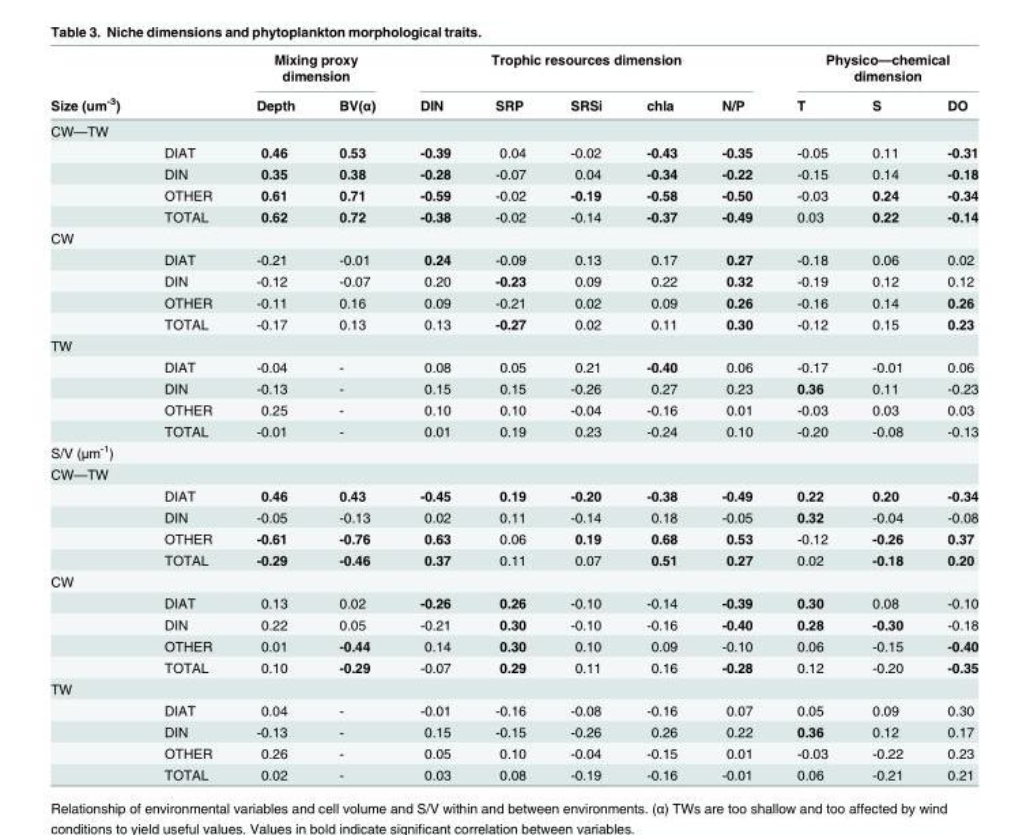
<table><thead><tr><td rowspan="2">Size (um<sup>-3</sup>)</td><td rowspan="2"></td><td colspan="2">Mixing proxy dimension</td><td colspan="5">Trophic resources dimension</td><td colspan="3">Physico—chemical dimension</td></tr><tr><td>Depth</td><td>BV(α)</td><td>DIN</td><td>SRP</td><td>SRSi</td><td>chla</td><td>N/P</td><td>T</td><td>S</td><td>DO</td></tr></thead><tbody><tr><td colspan="12">CW—TW</td></tr><tr><td></td><td>DIAT</td><td>0.46</td><td>0.53</td><td>-0.39</td><td>0.04</td><td>-0.02</td><td>-0.43</td><td>-0.35</td><td>-0.05</td><td>0.11</td><td>-0.31</td></tr><tr><td></td><td>DIN</td><td>0.35</td><td>0.38</td><td>-0.28</td><td>-0.07</td><td>0.04</td><td>-0.34</td><td>-0.22</td><td>-0.15</td><td>0.14</td><td>-0.18</td></tr><tr><td></td><td>OTHER</td><td>0.61</td><td>0.71</td><td>-0.59</td><td>-0.02</td><td>-0.19</td><td>-0.58</td><td>-0.50</td><td>-0.03</td><td>0.24</td><td>-0.34</td></tr><tr><td></td><td>TOTAL</td><td>0.62</td><td>0.72</td><td>-0.38</td><td>-0.02</td><td>-0.14</td><td>-0.37</td><td>-0.49</td><td>0.03</td><td>0.22</td><td>-0.14</td></tr><tr><td colspan="12">CW</td></tr><tr><td></td><td>DIAT</td><td>-0.21</td><td>-0.01</td><td>0.24</td><td>-0.09</td><td>0.13</td><td>0.17</td><td>0.27</td><td>-0.18</td><td>0.06</td><td>0.02</td></tr><tr><td></td><td>DIN</td><td>-0.12</td><td>-0.07</td><td>0.20</td><td>-0.23</td><td>0.09</td><td>0.22</td><td>0.32</td><td>-0.19</td><td>0.12</td><td>0.12</td></tr><tr><td></td><td>OTHER</td><td>-0.11</td><td>0.16</td><td>0.09</td><td>-0.21</td><td>0.02</td><td>0.09</td><td>0.26</td><td>-0.16</td><td>0.14</td><td>0.26</td></tr><tr><td></td><td>TOTAL</td><td>-0.17</td><td>0.13</td><td>0.13</td><td>-0.27</td><td>0.02</td><td>0.11</td><td>0.30</td><td>-0.12</td><td>0.15</td><td>0.23</td></tr><tr><td colspan="12">TW</td></tr><tr><td></td><td>DIAT</td><td>-0.04</td><td>-</td><td>0.08</td><td>0.05</td><td>0.21</td><td>-0.40</td><td>0.06</td><td>-0.17</td><td>-0.01</td><td>0.06</td></tr><tr><td></td><td>DIN</td><td>-0.13</td><td>-</td><td>0.15</td><td>0.15</td><td>-0.26</td><td>0.27</td><td>0.23</td><td>0.36</td><td>0.11</td><td>-0.23</td></tr><tr><td></td><td>OTHER</td><td>0.25</td><td>-</td><td>0.10</td><td>0.10</td><td>-0.04</td><td>-0.16</td><td>0.01</td><td>-0.03</td><td>0.03</td><td>0.03</td></tr><tr><td></td><td>TOTAL</td><td>-0.01</td><td>-</td><td>0.01</td><td>0.19</td><td>0.23</td><td>-0.24</td><td>0.10</td><td>-0.20</td><td>-0.08</td><td>-0.13</td></tr><tr><td colspan="12">S/V (μm<sup>-1</sup>)</td></tr><tr><td colspan="12">CW—TW</td></tr><tr><td></td><td>DIAT</td><td>0.46</td><td>0.43</td><td>-0.45</td><td>0.19</td><td>-0.20</td><td>-0.38</td><td>-0.49</td><td>0.22</td><td>0.20</td><td>-0.34</td></tr><tr><td></td><td>DIN</td><td>-0.05</td><td>-0.13</td><td>0.02</td><td>0.11</td><td>-0.14</td><td>0.18</td><td>-0.05</td><td>0.32</td><td>-0.04</td><td>-0.08</td></tr><tr><td></td><td>OTHER</td><td>-0.61</td><td>-0.76</td><td>0.63</td><td>0.06</td><td>0.19</td><td>0.68</td><td>0.53</td><td>-0.12</td><td>-0.26</td><td>0.37</td></tr><tr><td></td><td>TOTAL</td><td>-0.29</td><td>-0.46</td><td>0.37</td><td>0.11</td><td>0.07</td><td>0.51</td><td>0.27</td><td>0.02</td><td>-0.18</td><td>0.20</td></tr><tr><td colspan="12">CW</td></tr><tr><td></td><td>DIAT</td><td>0.13</td><td>0.02</td><td>-0.26</td><td>0.26</td><td>-0.10</td><td>-0.14</td><td>-0.39</td><td>0.30</td><td>0.08</td><td>-0.10</td></tr><tr><td></td><td>DIN</td><td>0.22</td><td>0.05</td><td>-0.21</td><td>0.30</td><td>-0.10</td><td>-0.16</td><td>-0.40</td><td>0.28</td><td>-0.30</td><td>-0.18</td></tr><tr><td></td><td>OTHER</td><td>0.01</td><td>-0.44</td><td>0.14</td><td>0.30</td><td>0.10</td><td>0.09</td><td>-0.10</td><td>0.06</td><td>-0.15</td><td>-0.40</td></tr><tr><td></td><td>TOTAL</td><td>0.10</td><td>-0.29</td><td>-0.07</td><td>0.29</td><td>0.11</td><td>0.16</td><td>-0.28</td><td>0.12</td><td>-0.20</td><td>-0.35</td></tr><tr><td colspan="12">TW</td></tr><tr><td></td><td>DIAT</td><td>0.04</td><td>-</td><td>-0.01</td><td>-0.16</td><td>-0.08</td><td>-0.16</td><td>0.07</td><td>0.05</td><td>0.09</td><td>0.30</td></tr><tr><td></td><td>DIN</td><td>-0.13</td><td>-</td><td>0.15</td><td>-0.15</td><td>-0.26</td><td>0.26</td><td>0.22</td><td>0.36</td><td>0.12</td><td>0.17</td></tr><tr><td></td><td>OTHER</td><td>0.26</td><td>-</td><td>0.05</td><td>0.10</td><td>-0.04</td><td>-0.15</td><td>0.01</td><td>-0.03</td><td>-0.22</td><td>0.23</td></tr><tr><td></td><td>TOTAL</td><td>0.02</td><td>-</td><td>0.03</td><td>0.08</td><td>-0.19</td><td>-0.16</td><td>-0.01</td><td>0.06</td><td>-0.21</td><td>0.21</td></tr></tbody></table>